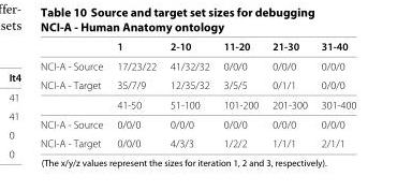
<table><thead><tr><td></td><td>1</td><td>2-10</td><td>11-20</td><td>21-30</td><td>31-40</td></tr></thead><tbody><tr><td>NCI-A - Source</td><td>17/23/22</td><td>41/32/32</td><td>0/0/0</td><td>0/0/0</td><td>0/0/0</td></tr><tr><td rowspan="2">NCI-A - Target</td><td>35/7/9</td><td>12/35/32</td><td>3/5/5</td><td>0/1/1</td><td>0/0/0</td></tr><tr><td>41-50</td><td>51-100</td><td>101-200</td><td>201-300</td><td>301-400</td></tr><tr><td>NCI-A - Source</td><td>0/0/0</td><td>0/0/0</td><td>0/0/0</td><td>0/0/0</td><td>0/0/0</td></tr><tr><td>NCI-A - Target</td><td>0/0/0</td><td>4/3/3</td><td>1/2/2</td><td>1/1/1</td><td>2/1/1</td></tr></tbody></table>